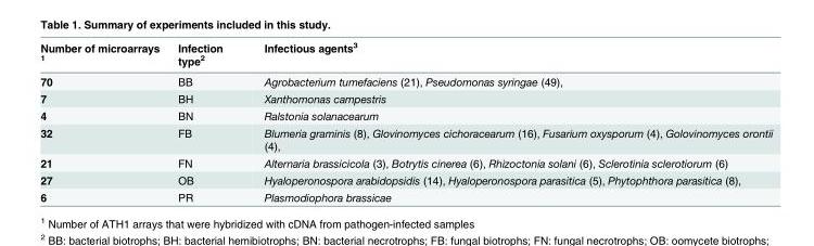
<table><thead><tr><td>Number of microarrays <sup>1</sup></td><td>Infection type<sup>2</sup></td><td>Infectious agents<sup>3</sup></td></tr></thead><tbody><tr><td>70</td><td>BB</td><td>Agrobacterium tumefaciens (21), Pseudomonas syringae (49),</td></tr><tr><td>7</td><td>BH</td><td>Xanthomonas campestris</td></tr><tr><td>4</td><td>BN</td><td>Ralstonia solanacearum</td></tr><tr><td>32</td><td>FB</td><td>Blumeria graminis (8), Glovinomyces cichoracearum (16), Fusarium oxysporum (4), Golovinomyces orontii (4),</td></tr><tr><td>21</td><td>FN</td><td>Alternaria brassicicola (3), Botrytis cinerea (6), Rhizoctonia solani (6), Sclerotinia sclerotiorum (6)</td></tr><tr><td>27</td><td>OB</td><td>Hyaloperonospora arabidopsidis (14), Hyaloperonospora parasitica (5), Phytophthora parasitica (8),</td></tr><tr><td>6</td><td>PR</td><td>Plasmodiophora brassicae</td></tr></tbody></table>